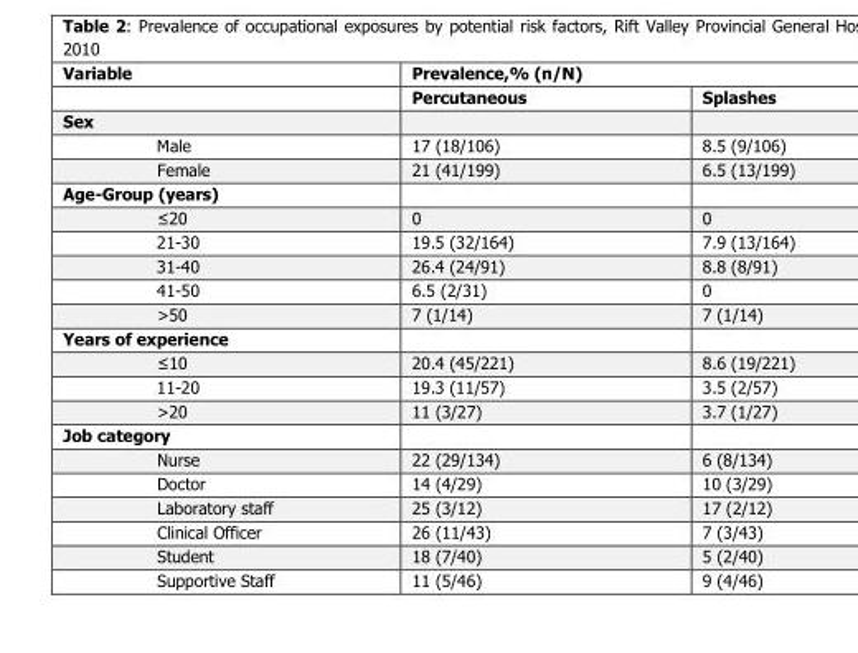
<table><thead><tr><td rowspan="2">Variable</td><td colspan="2">Prevalence,% (n/N)</td></tr><tr><td>Percutaneous</td><td>Splashes</td></tr></thead><tbody><tr><td colspan="3">Sex</td></tr><tr><td>Male</td><td>17 (18/106)</td><td>8.5 (9/106)</td></tr><tr><td>Female</td><td>21 (41/199)</td><td>6.5 (13/199)</td></tr><tr><td colspan="3">Age-Group (years)</td></tr><tr><td>≤20</td><td>0</td><td>0</td></tr><tr><td>21-30</td><td>19.5 (32/164)</td><td>7.9 (13/164)</td></tr><tr><td>31-40</td><td>26.4 (24/91)</td><td>8.8 (8/91)</td></tr><tr><td>41-50</td><td>6.5 (2/31)</td><td>0</td></tr><tr><td>&gt;50</td><td>7 (1/14)</td><td>7 (1/14)</td></tr><tr><td colspan="3">Years of experience</td></tr><tr><td>≤10</td><td>20.4 (45/221)</td><td>8.6 (19/221)</td></tr><tr><td>11-20</td><td>19.3 (11/57)</td><td>3.5 (2/57)</td></tr><tr><td>&gt;20</td><td>11 (3/27)</td><td>3.7 (1/27)</td></tr><tr><td colspan="3">Job category</td></tr><tr><td>Nurse</td><td>22 (29/134)</td><td>6 (8/134)</td></tr><tr><td>Doctor</td><td>14 (4/29)</td><td>10 (3/29)</td></tr><tr><td>Laboratory staff</td><td>25 (3/12)</td><td>17 (2/12)</td></tr><tr><td>Clinical Officer</td><td>26 (11/43)</td><td>7 (3/43)</td></tr><tr><td>Student</td><td>18 (7/40)</td><td>5 (2/40)</td></tr><tr><td>Supportive Staff</td><td>11 (5/46)</td><td>9 (4/46)</td></tr></tbody></table>